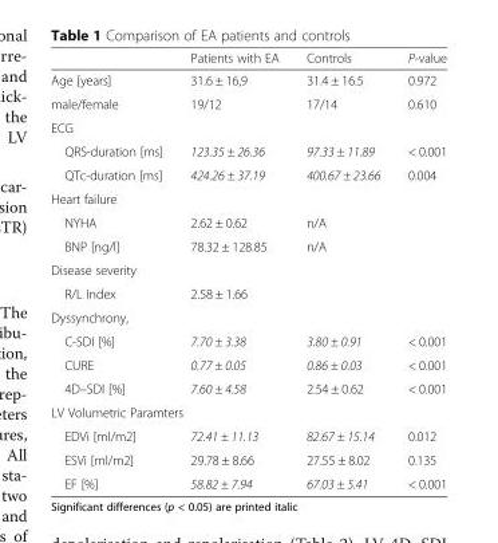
<table><thead><tr><td></td><td>Patients with EA</td><td>Controls</td><td>P-value</td></tr></thead><tbody><tr><td>Age [years]</td><td>31.6 ± 16,9</td><td>31.4 ± 16.5</td><td>0.972</td></tr><tr><td>male/female</td><td>19/12</td><td>17/14</td><td>0.610</td></tr><tr><td colspan="4">ECG</td></tr><tr><td>QRS-duration [ms]</td><td>123.35 ± 26.36</td><td>97.33 ± 11.89</td><td>&lt; 0.001</td></tr><tr><td>QTc-duration [ms]</td><td>424.26 ± 37.19</td><td>400.67 ± 23.66</td><td>0.004</td></tr><tr><td colspan="4">Heart failure</td></tr><tr><td>NYHA</td><td>2.62 ± 0.62</td><td>n/A</td><td></td></tr><tr><td>BNP [ng/l]</td><td>78.32 ± 128.85</td><td>n/A</td><td></td></tr><tr><td colspan="4">Disease severity</td></tr><tr><td>R/L Index</td><td>2.58 ± 1.66</td><td></td><td></td></tr><tr><td colspan="4">Dyssynchrony,</td></tr><tr><td>C-SDI [%]</td><td>7.70 ± 3.38</td><td>3.80 ± 0.91</td><td>&lt; 0.001</td></tr><tr><td>CURE</td><td>0.77 ± 0.05</td><td>0.86 ± 0.03</td><td>&lt; 0.001</td></tr><tr><td>4D–SDI [%]</td><td>7.60 ± 4.58</td><td>2.54 ± 0.62</td><td>&lt; 0.001</td></tr><tr><td colspan="4">LV Volumetric Paramters</td></tr><tr><td>EDVi [ml/m2]</td><td>72.41 ± 11.13</td><td>82.67 ± 15.14</td><td>0.012</td></tr><tr><td>ESVi [ml/m2]</td><td>29.78 ± 8.66</td><td>27.55 ± 8.02</td><td>0.135</td></tr><tr><td>EF [%]</td><td>58.82 ± 7.94</td><td>67.03 ± 5.41</td><td>&lt; 0.001</td></tr></tbody></table>